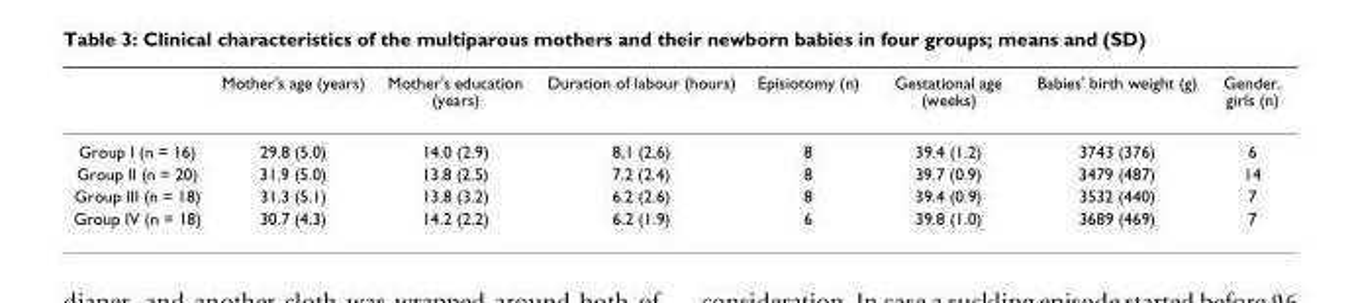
<table><thead><tr><td></td><td>Mother&#x27;s age (years)</td><td>Mother&#x27;s education (years)</td><td>Duration of labour (hours)</td><td>Episiotomy (n)</td><td>Gestational age (weeks)</td><td>Babies&#x27; birth weight (g)</td><td>Gender, girls (n)</td></tr></thead><tbody><tr><td>Group I (n = 16)</td><td>29.8 (5.0)</td><td>14.0 (2.9)</td><td>8,1 (2,6)</td><td>8</td><td>39.4 (1.2)</td><td>3743 (376)</td><td>6</td></tr><tr><td>Group II (n = 20)</td><td>31.9 (5.0)</td><td>13.8 (2.5)</td><td>7.2 (2.4)</td><td>8</td><td>39.7 (0.9)</td><td>3479 (487)</td><td>14</td></tr><tr><td>Group III (n = 18)</td><td>31.3 (5.1)</td><td>13.8 (3.2)</td><td>6.2 (2.6)</td><td>8</td><td>39.4 (0.9)</td><td>3532 (440)</td><td>7</td></tr><tr><td>Group IV (n = 18)</td><td>30.7 (4.3)</td><td>14.2 (2.2)</td><td>6.2 (1.9)</td><td>6</td><td>39.8 (1.0)</td><td>3689 (469)</td><td>7</td></tr></tbody></table>